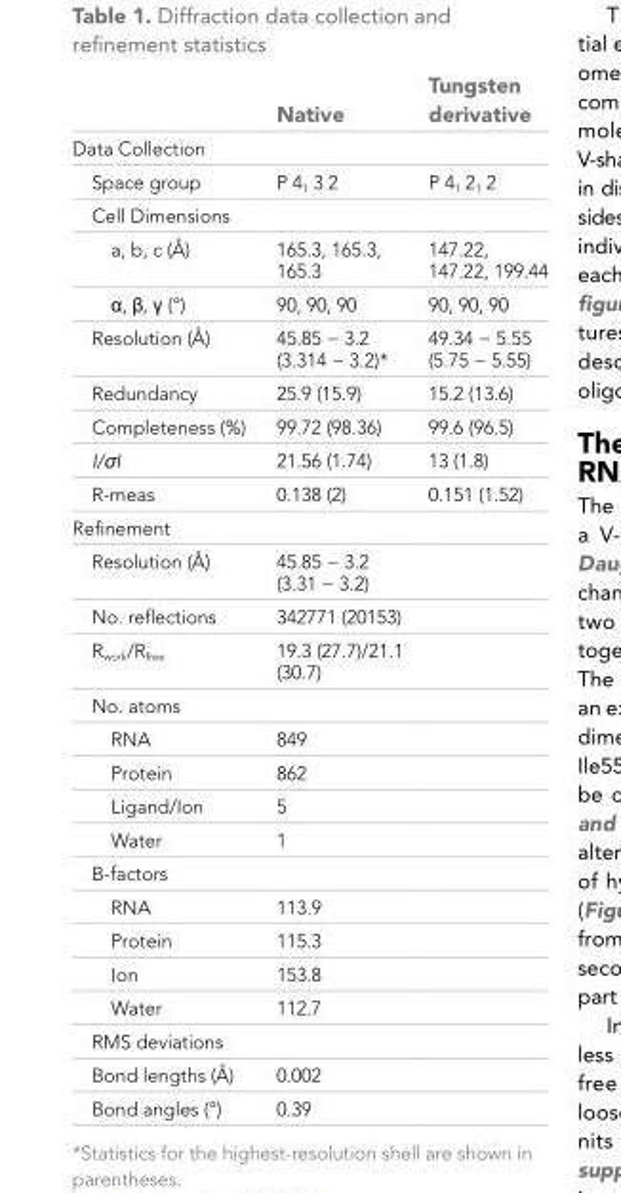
<table><thead><tr><td></td><td>Native</td><td>Tungsten derivative</td></tr></thead><tbody><tr><td colspan="3">Data Collection</td></tr><tr><td>Space group</td><td>P 4<sub>1</sub> 3 2</td><td>P 4<sub>1</sub> 2<sub>1</sub> 2</td></tr><tr><td colspan="3">Cell Dimensions</td></tr><tr><td>a, b, c (Å)</td><td>165.3, 165.3, 165.3</td><td>147.22, 147.22, 199.44</td></tr><tr><td>α, β, γ (°)</td><td>90, 90, 90</td><td>90, 90, 90</td></tr><tr><td>Resolution (Å)</td><td>45.85 − 3.2 (3.314 − 3.2)*</td><td>49.34 − 5.55 (5.75 − 5.55)</td></tr><tr><td>Redundancy</td><td>25.9 (15.9)</td><td>15.2 (13.6)</td></tr><tr><td>Completeness (%)</td><td>99.72 (98.36)</td><td>99.6 (96.5)</td></tr><tr><td>I/σI</td><td>21.56 (1.74)</td><td>13 (1.8)</td></tr><tr><td>R-meas</td><td>0.138 (2)</td><td>0.151 (1.52)</td></tr><tr><td colspan="3">Refinement</td></tr><tr><td>Resolution (Å)</td><td>45.85 − 3.2 (3.31 − 3.2)</td><td></td></tr><tr><td>No. reflections</td><td>342771 (20153)</td><td></td></tr><tr><td>R<sub>work</sub>/R<sub>free</sub></td><td>19.3 (27.7)/21.1 (30.7)</td><td></td></tr><tr><td colspan="3">No. atoms</td></tr><tr><td>RNA</td><td>849</td><td></td></tr><tr><td>Protein</td><td>862</td><td></td></tr><tr><td>Ligand/Ion</td><td>5</td><td></td></tr><tr><td>Water</td><td>1</td><td></td></tr><tr><td colspan="3">B-factors</td></tr><tr><td>RNA</td><td>113.9</td><td></td></tr><tr><td>Protein</td><td>115.3</td><td></td></tr><tr><td>Ion</td><td>153.8</td><td></td></tr><tr><td>Water</td><td>112.7</td><td></td></tr><tr><td colspan="3">RMS deviations</td></tr><tr><td>Bond lengths (Å)</td><td>0.002</td><td></td></tr><tr><td>Bond angles (°)</td><td>0.39</td><td></td></tr></tbody></table>